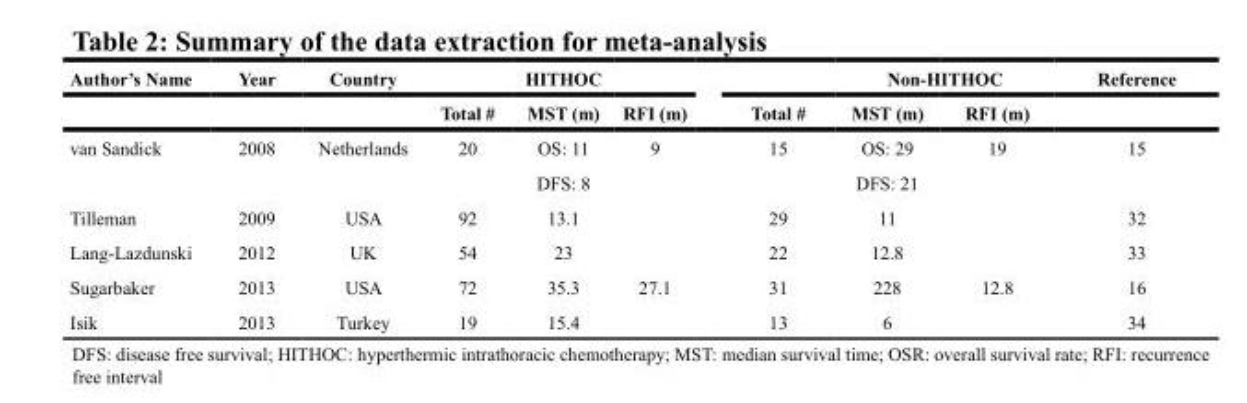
<table><thead><tr><td rowspan="2">Author’s Name</td><td rowspan="2">Year</td><td rowspan="2">Country</td><td colspan="3">HITHOC</td><td rowspan="2">Total #</td><td colspan="2">Non-HITHOC</td><td rowspan="2">Reference</td></tr><tr><td>Total #</td><td>MST (m)</td><td>RFI (m)</td><td>MST (m)</td><td>RFI (m)</td></tr></thead><tbody><tr><td rowspan="2">van Sandick</td><td>2008</td><td>Netherlands</td><td>20</td><td>OS: 11</td><td>9</td><td>15</td><td>OS: 29</td><td>19</td><td>15</td></tr><tr><td></td><td></td><td></td><td>DFS: 8</td><td></td><td></td><td>DFS: 21</td><td></td><td></td></tr><tr><td>Tilleman</td><td>2009</td><td>USA</td><td>92</td><td>13.1</td><td></td><td>29</td><td>11</td><td></td><td>32</td></tr><tr><td>Lang-Lazdunski</td><td>2012</td><td>UK</td><td>54</td><td>23</td><td></td><td>22</td><td>12.8</td><td></td><td>33</td></tr><tr><td>Sugarbaker</td><td>2013</td><td>USA</td><td>72</td><td>35.3</td><td>27.1</td><td>31</td><td>228</td><td>12.8</td><td>16</td></tr><tr><td>Isik</td><td>2013</td><td>Turkey</td><td>19</td><td>15.4</td><td></td><td>13</td><td>6</td><td></td><td>34</td></tr></tbody></table>